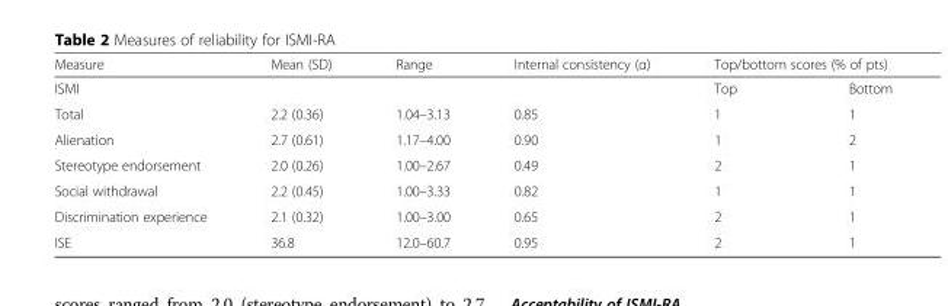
<table><thead><tr><td rowspan="2">Measure ISMI</td><td rowspan="2">Mean (SD)</td><td rowspan="2">Range</td><td rowspan="2">Internal consistency (α)</td><td colspan="2">Top/bottom scores (% of pts)</td></tr><tr><td>Top</td><td>Bottom</td></tr></thead><tbody><tr><td>Total</td><td>2.2 (0.36)</td><td>1.04–3.13</td><td>0.85</td><td>1</td><td>1</td></tr><tr><td>Alienation</td><td>2.7 (0.61)</td><td>1.17–4.00</td><td>0.90</td><td>1</td><td>2</td></tr><tr><td>Stereotype endorsement</td><td>2.0 (0.26)</td><td>1.00–2.67</td><td>0.49</td><td>2</td><td>1</td></tr><tr><td>Social withdrawal</td><td>2.2 (0.45)</td><td>1.00–3.33</td><td>0.82</td><td>1</td><td>1</td></tr><tr><td>Discrimination experience</td><td>2.1 (0.32)</td><td>1.00–3.00</td><td>0.65</td><td>2</td><td>1</td></tr><tr><td>ISE</td><td>36.8</td><td>12.0–60.7</td><td>0.95</td><td>2</td><td>1</td></tr></tbody></table>